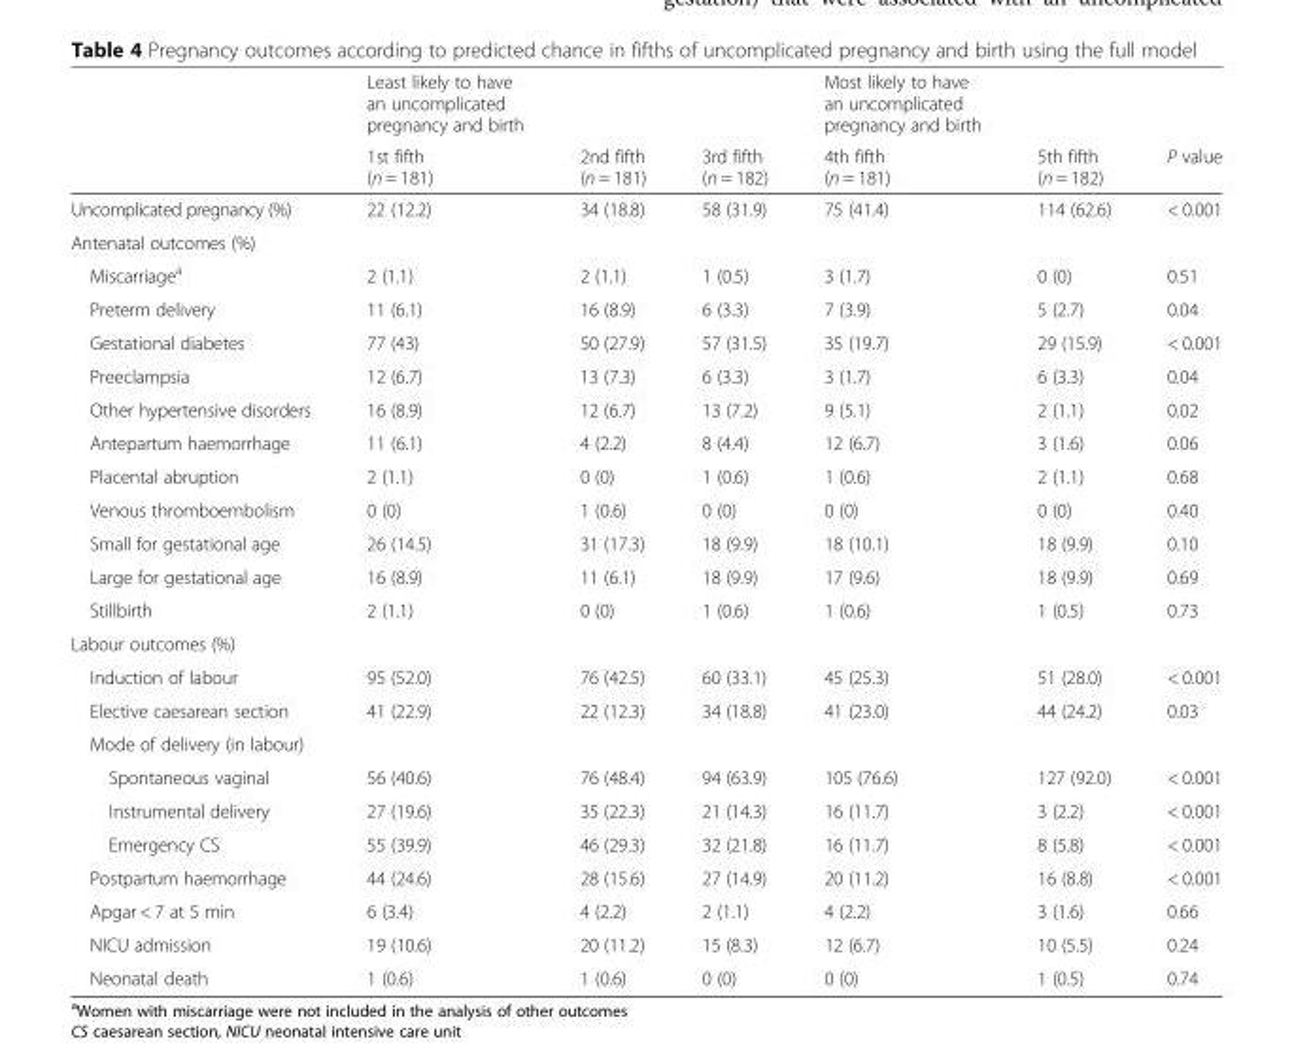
<table><thead><tr><td rowspan="2"></td><td rowspan="2">Least likely to have an uncomplicated pregnancy and birth 1st fifth (n = 181)</td><td rowspan="2">2nd fifth (n = 181)</td><td rowspan="2">3rd fifth (n = 182)</td><td rowspan="2">Most likely to have an uncomplicated pregnancy and birth 4th fifth (n = 181)</td><td rowspan="2">5th fifth (n = 182)</td><td rowspan="2">P value</td></tr><tr></tr></thead><tbody><tr><td>Uncomplicated pregnancy (%)</td><td>22 (12.2)</td><td>34 (18.8)</td><td>58 (31.9)</td><td>75 (41.4)</td><td>114 (62.6)</td><td>&lt; 0.001</td></tr><tr><td colspan="7">Antenatal outcomes (%)</td></tr><tr><td>Miscarriage<sup>a</sup></td><td>2 (1.1)</td><td>2 (1.1)</td><td>1 (0.5)</td><td>3 (1.7)</td><td>0 (0)</td><td>0.51</td></tr><tr><td>Preterm delivery</td><td>11 (6.1)</td><td>16 (8.9)</td><td>6 (3.3)</td><td>7 (3.9)</td><td>5 (2.7)</td><td>0.04</td></tr><tr><td>Gestational diabetes</td><td>77 (43)</td><td>50 (27.9)</td><td>57 (31.5)</td><td>35 (19.7)</td><td>29 (15.9)</td><td>&lt; 0.001</td></tr><tr><td>Preeclampsia</td><td>12 (6.7)</td><td>13 (7.3)</td><td>6 (3.3)</td><td>3 (1.7)</td><td>6 (3.3)</td><td>0.04</td></tr><tr><td>Other hypertensive disorders</td><td>16 (8.9)</td><td>12 (6.7)</td><td>13 (7.2)</td><td>9 (5.1)</td><td>2 (1.1)</td><td>0.02</td></tr><tr><td>Antepartum haemorrhage</td><td>11 (6.1)</td><td>4 (2.2)</td><td>8 (4.4)</td><td>12 (6.7)</td><td>3 (1.6)</td><td>0.06</td></tr><tr><td>Placental abruption</td><td>2 (1.1)</td><td>0 (0)</td><td>1 (0.6)</td><td>1 (0.6)</td><td>2 (1.1)</td><td>0.68</td></tr><tr><td>Venous thromboembolism</td><td>0 (0)</td><td>1 (0.6)</td><td>0 (0)</td><td>0 (0)</td><td>0 (0)</td><td>0.40</td></tr><tr><td>Small for gestational age</td><td>26 (14.5)</td><td>31 (17.3)</td><td>18 (9.9)</td><td>18 (10.1)</td><td>18 (9.9)</td><td>0.10</td></tr><tr><td>Large for gestational age</td><td>16 (8.9)</td><td>11 (6.1)</td><td>18 (9.9)</td><td>17 (9.6)</td><td>18 (9.9)</td><td>0.69</td></tr><tr><td>Stillbirth</td><td>2 (1.1)</td><td>0 (0)</td><td>1 (0.6)</td><td>1 (0.6)</td><td>1 (0.5)</td><td>0.73</td></tr><tr><td colspan="7">Labour outcomes (%)</td></tr><tr><td>Induction of labour</td><td>95 (52.0)</td><td>76 (42.5)</td><td>60 (33.1)</td><td>45 (25.3)</td><td>51 (28.0)</td><td>&lt; 0.001</td></tr><tr><td>Elective caesarean section</td><td>41 (22.9)</td><td>22 (12.3)</td><td>34 (18.8)</td><td>41 (23.0)</td><td>44 (24.2)</td><td>0.03</td></tr><tr><td colspan="7">Mode of delivery (in labour)</td></tr><tr><td>Spontaneous vaginal</td><td>56 (40.6)</td><td>76 (48.4)</td><td>94 (63.9)</td><td>105 (76.6)</td><td>127 (92.0)</td><td>&lt; 0.001</td></tr><tr><td>Instrumental delivery</td><td>27 (19.6)</td><td>35 (22.3)</td><td>21 (14.3)</td><td>16 (11.7)</td><td>3 (2.2)</td><td>&lt; 0.001</td></tr><tr><td>Emergency CS</td><td>55 (39.9)</td><td>46 (29.3)</td><td>32 (21.8)</td><td>16 (11.7)</td><td>8 (5.8)</td><td>&lt; 0.001</td></tr><tr><td>Postpartum haemorrhage</td><td>44 (24.6)</td><td>28 (15.6)</td><td>27 (14.9)</td><td>20 (11.2)</td><td>16 (8.8)</td><td>&lt; 0.001</td></tr><tr><td>Apgar &lt; 7 at 5 min</td><td>6 (3.4)</td><td>4 (2.2)</td><td>2 (1.1)</td><td>4 (2.2)</td><td>3 (1.6)</td><td>0.66</td></tr><tr><td>NICU admission</td><td>19 (10.6)</td><td>20 (11.2)</td><td>15 (8.3)</td><td>12 (6.7)</td><td>10 (5.5)</td><td>0.24</td></tr><tr><td>Neonatal death</td><td>1 (0.6)</td><td>1 (0.6)</td><td>0 (0)</td><td>0 (0)</td><td>1 (0.5)</td><td>0.74</td></tr></tbody></table>